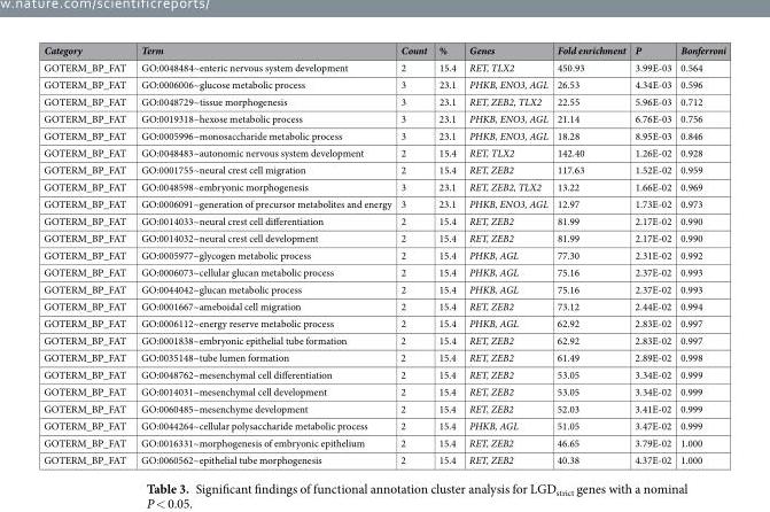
<table><thead><tr><td>Category</td><td>Term</td><td>Count</td><td>%</td><td>Genes</td><td>Fold enrichment</td><td>P</td><td>Bonferroni</td></tr></thead><tbody><tr><td>GOTERM_BP_FAT</td><td>GO:0048484~enteric nervous system development</td><td>2</td><td>15.4</td><td>RET, TLX2</td><td>450.93</td><td>3.99E-03</td><td>0.564</td></tr><tr><td>GOTERM_BP_FAT</td><td>GO:0006006~glucose metabolic process</td><td>3</td><td>23.1</td><td>PHKB, ENO3, AGL</td><td>26.53</td><td>4.34E-03</td><td>0.596</td></tr><tr><td>GOTERM_BP_FAT</td><td>GO:0048729~tissue morphogenesis</td><td>3</td><td>23.1</td><td>RET, ZEB2, TLX2</td><td>22.55</td><td>5.96E-03</td><td>0.712</td></tr><tr><td>GOTERM_BP_FAT</td><td>GO:0019318~hexose metabolic process</td><td>3</td><td>23.1</td><td>PHKB, ENO3, AGL</td><td>21.14</td><td>6.76E-03</td><td>0.756</td></tr><tr><td>GOTERM_BP_FAT</td><td>GO:0005996~monosaccharide metabolic process</td><td>3</td><td>23.1</td><td>PHKB, ENO3, AGL</td><td>18.28</td><td>8.95E-03</td><td>0.846</td></tr><tr><td>GOTERM_BP_FAT</td><td>GO:0048483~autonomic nervous system development</td><td>2</td><td>15.4</td><td>RET, TLX2</td><td>142.40</td><td>1.26E-02</td><td>0.928</td></tr><tr><td>GOTERM_BP_FAT</td><td>GO:0001755~neural crest cell migration</td><td>2</td><td>15.4</td><td>RET, ZEB2</td><td>117.63</td><td>1.52E-02</td><td>0.959</td></tr><tr><td>GOTERM_BP_FAT</td><td>GO:0048598~embryonic morphogenesis</td><td>3</td><td>23.1</td><td>RET, ZEB2, TLX2</td><td>13.22</td><td>1.66E-02</td><td>0.969</td></tr><tr><td>GOTERM_BP_FAT</td><td>GO:0006091~generation of precursor metabolites and energy</td><td>3</td><td>23.1</td><td>PHKB, ENO3, AGL</td><td>12.97</td><td>1.73E-02</td><td>0.973</td></tr><tr><td>GOTERM_BP_FAT</td><td>GO:0014033~neural crest cell differentiation</td><td>2</td><td>15.4</td><td>RET, ZEB2</td><td>81.99</td><td>2.17E-02</td><td>0.990</td></tr><tr><td>GOTERM_BP_FAT</td><td>GO:0014032~neural crest cell development</td><td>2</td><td>15.4</td><td>RET, ZEB2</td><td>81.99</td><td>2.17E-02</td><td>0.990</td></tr><tr><td>GOTERM_BP_FAT</td><td>GO:0005977~glycogen metabolic process</td><td>2</td><td>15.4</td><td>PHKB, AGL</td><td>77.30</td><td>2.31E-02</td><td>0.992</td></tr><tr><td>GOTERM_BP_FAT</td><td>GO:0006073~cellular glucan metabolic process</td><td>2</td><td>15.4</td><td>PHKB, AGL</td><td>75.16</td><td>2.37E-02</td><td>0.993</td></tr><tr><td>GOTERM_BP_FAT</td><td>GO:0044042~glucan metabolic process</td><td>2</td><td>15.4</td><td>PHKB, AGL</td><td>75.16</td><td>2.37E-02</td><td>0.993</td></tr><tr><td>GOTERM_BP_FAT</td><td>GO:0001667~ameboidal cell migration</td><td>2</td><td>15.4</td><td>RET, ZEB2</td><td>73.12</td><td>2.44E-02</td><td>0.994</td></tr><tr><td>GOTERM_BP_FAT</td><td>GO:0006112~energy reserve metabolic process</td><td>2</td><td>15.4</td><td>PHKB, AGL</td><td>62.92</td><td>2.83E-02</td><td>0.997</td></tr><tr><td>GOTERM_BP_FAT</td><td>GO:0001838~embryonic epithelial tube formation</td><td>2</td><td>15.4</td><td>RET, ZEB2</td><td>62.92</td><td>2.83E-02</td><td>0.997</td></tr><tr><td>GOTERM_BP_FAT</td><td>GO:0035148~tube lumen formation</td><td>2</td><td>15.4</td><td>RET, ZEB2</td><td>61.49</td><td>2.89E-02</td><td>0.998</td></tr><tr><td>GOTERM_BP_FAT</td><td>GO:0048762~mesenchymal cell differentiation</td><td>2</td><td>15.4</td><td>RET, ZEB2</td><td>53.05</td><td>3.34E-02</td><td>0.999</td></tr><tr><td>GOTERM_BP_FAT</td><td>GO:0014031~mesenchymal cell development</td><td>2</td><td>15.4</td><td>RET, ZEB2</td><td>53.05</td><td>3.34E-02</td><td>0.999</td></tr><tr><td>GOTERM_BP_FAT</td><td>GO:0060485~mesenchyme development</td><td>2</td><td>15.4</td><td>RET, ZEB2</td><td>52.03</td><td>3.41E-02</td><td>0.999</td></tr><tr><td>GOTERM_BP_FAT</td><td>GO:0044264~cellular polysaccharide metabolic process</td><td>2</td><td>15.4</td><td>PHKB, AGL</td><td>51.05</td><td>3.47E-02</td><td>0.999</td></tr><tr><td>GOTERM_BP_FAT</td><td>GO:0016331~morphogenesis of embryonic epithelium</td><td>2</td><td>15.4</td><td>RET, ZEB2</td><td>46.65</td><td>3.79E-02</td><td>1.000</td></tr><tr><td>GOTERM_BP_FAT</td><td>GO:0060562~epithelial tube morphogenesis</td><td>2</td><td>15.4</td><td>RET, ZEB2</td><td>40.38</td><td>4.37E-02</td><td>1.000</td></tr></tbody></table>